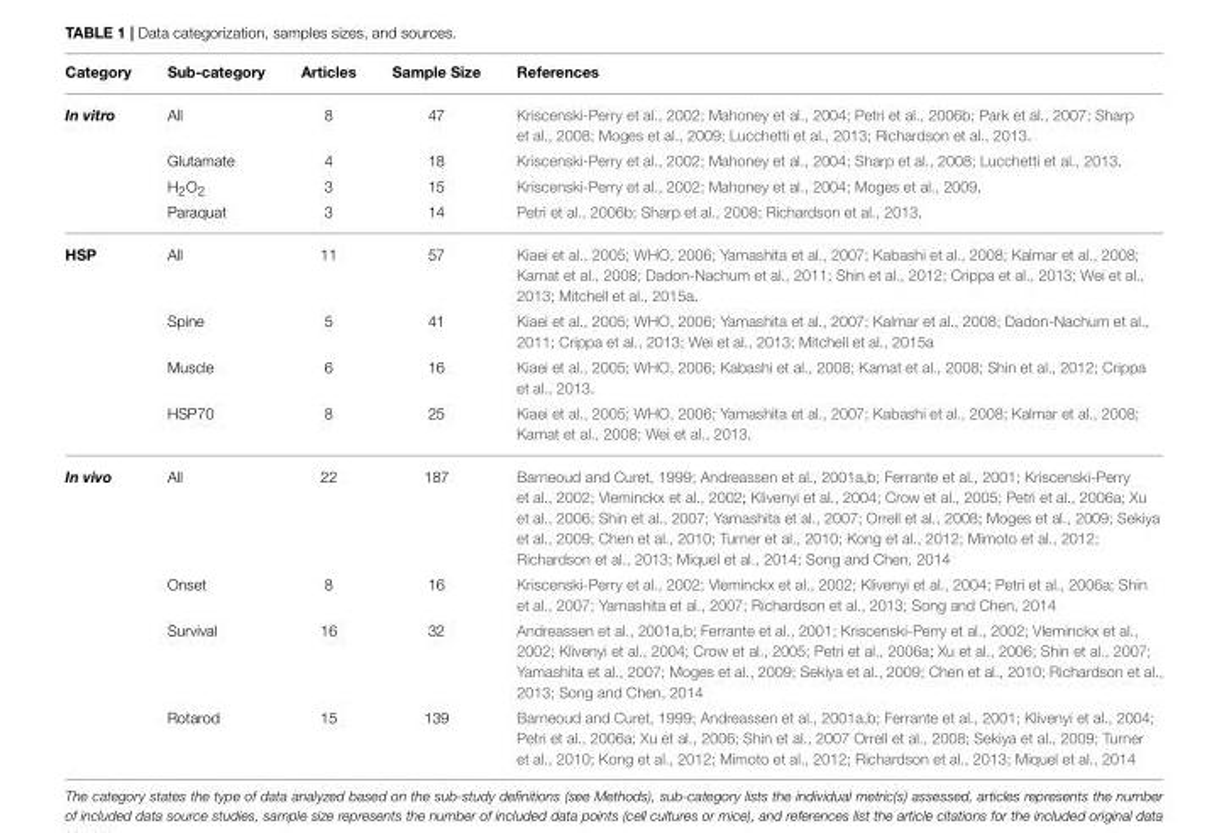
<table><thead><tr><td>Category</td><td>Sub-category</td><td>Articles</td><td>Sample Size</td><td>References</td></tr></thead><tbody><tr><td rowspan="4">In vitro</td><td>All</td><td>8</td><td>47</td><td>Kriscenski-Perry et al., 2002; Mahoney et al., 2004; Petri et al., 2006b; Park et al., 2007; Sharp et al., 2008; Moges et al., 2009; Lucchetti et al., 2013; Richardson et al., 2013.</td></tr><tr><td>Glutamate</td><td>4</td><td>18</td><td>Kriscenski-Perry et al., 2002; Mahoney et al., 2004; Sharp et al., 2008; Lucchetti et al., 2013.</td></tr><tr><td>H<sub>2</sub>O<sub>2</sub></td><td>3</td><td>15</td><td>Kriscenski-Perry et al., 2002; Mahoney et al., 2004; Moges et al., 2009.</td></tr><tr><td>Paraquat</td><td>3</td><td>14</td><td>Petri et al., 2006b; Sharp et al., 2008; Richardson et al., 2013.</td></tr><tr><td rowspan="4">HSP</td><td>All</td><td>11</td><td>57</td><td>Kiaei et al., 2005; WHO, 2006; Yamashita et al., 2007; Kabashi et al., 2008; Kalmar et al., 2008; Kamat et al., 2008; Dadon-Nachum et al., 2011; Shin et al., 2012; Crippa et al., 2013; Wei et al., 2013; Mitchell et al., 2015a.</td></tr><tr><td>Spine</td><td>5</td><td>41</td><td>Kiaei et al., 2005; WHO, 2006; Yamashita et al., 2007; Kalmar et al., 2008; Dadon-Nachum et al., 2011; Crippa et al., 2013; Wei et al., 2013; Mitchell et al., 2015a</td></tr><tr><td>Muscle</td><td>6</td><td>16</td><td>Kiaei et al., 2005; WHO, 2006; Kabashi et al., 2008; Kamat et al., 2008; Shin et al., 2012; Crippa et al., 2013.</td></tr><tr><td>HSP70</td><td>8</td><td>25</td><td>Kiaei et al., 2005; WHO, 2006; Yamashita et al., 2007; Kabashi et al., 2008; Kalmar et al., 2008; Kamat et al., 2008; Wei et al., 2013.</td></tr><tr><td rowspan="4">In vivo</td><td>All</td><td>22</td><td>187</td><td>Barneoud and Curet, 1999; Andreassen et al., 2001a,b; Ferrante et al., 2001; Kriscenski-Perry et al., 2002; Vleminckx et al., 2002; Klivenyi et al., 2004; Crow et al., 2005; Petri et al., 2006a; Xu et al., 2006; Shin et al., 2007; Yamashita et al., 2007; Orrell et al., 2008; Moges et al., 2009; Sekiya et al., 2009; Chen et al., 2010; Turner et al., 2010; Kong et al., 2012; Mimoto et al., 2012; Richardson et al., 2013; Miquel et al., 2014; Song and Chen, 2014</td></tr><tr><td>Onset</td><td>8</td><td>16</td><td>Kriscenski-Perry et al., 2002; Vleminckx et al., 2002; Klivenyi et al., 2004; Petri et al., 2006a; Shin et al., 2007; Yamashita et al., 2007; Richardson et al., 2013; Song and Chen, 2014</td></tr><tr><td>Survival</td><td>16</td><td>32</td><td>Andreassen et al., 2001a,b; Ferrante et al., 2001; Kriscenski-Perry et al., 2002; Vleminckx et al., 2002; Klivenyi et al., 2004; Crow et al., 2005; Petri et al., 2006a; Xu et al., 2006; Shin et al., 2007; Yamashita et al., 2007; Moges et al., 2009; Sekiya et al., 2009; Chen et al., 2010; Richardson et al., 2013; Song and Chen, 2014</td></tr><tr><td>Rotarod</td><td>15</td><td>139</td><td>Barneoud and Curet, 1999; Andreassen et al., 2001a,b; Ferrante et al., 2001; Klivenyi et al., 2004; Petri et al., 2006a; Xu et al., 2006; Shin et al., 2007 Orrell et al., 2008; Sekiya et al., 2009; Turner et al., 2010; Kong et al., 2012; Mimoto et al., 2012; Richardson et al., 2013; Miquel et al., 2014</td></tr></tbody></table>